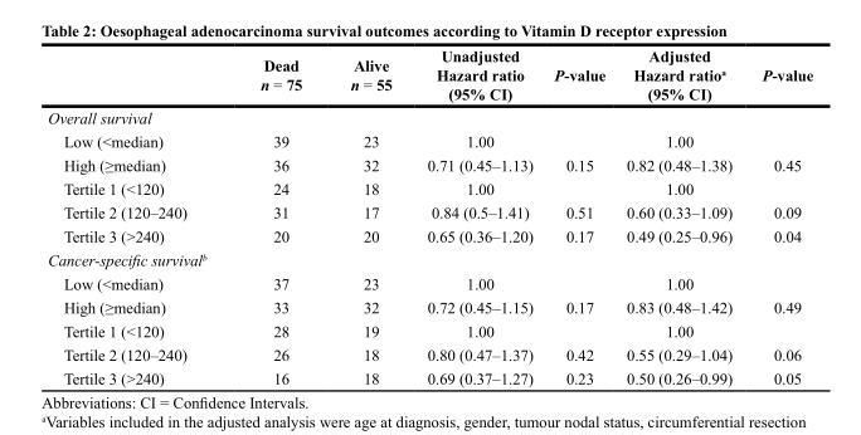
<table><thead><tr><td></td><td>Dead n = 75</td><td>Alive n = 55</td><td>Unadjusted Hazard ratio (95% CI)</td><td>P-value</td><td>Adjusted Hazard ratio<sup>a</sup> (95% CI)</td><td>P-value</td></tr></thead><tbody><tr><td colspan="7">Overall survival</td></tr><tr><td>Low (&lt;median)</td><td>39</td><td>23</td><td>1.00</td><td></td><td>1.00</td><td></td></tr><tr><td>High (≥median)</td><td>36</td><td>32</td><td>0.71 (0.45–1.13)</td><td>0.15</td><td>0.82 (0.48–1.38)</td><td>0.45</td></tr><tr><td>Tertile 1 (&lt;120)</td><td>24</td><td>18</td><td>1.00</td><td></td><td>1.00</td><td></td></tr><tr><td>Tertile 2 (120–240)</td><td>31</td><td>17</td><td>0.84 (0.5–1.41)</td><td>0.51</td><td>0.60 (0.33–1.09)</td><td>0.09</td></tr><tr><td>Tertile 3 (&gt;240)</td><td>20</td><td>20</td><td>0.65 (0.36–1.20)</td><td>0.17</td><td>0.49 (0.25–0.96)</td><td>0.04</td></tr><tr><td colspan="7">Cancer-specific survival<sup>b</sup></td></tr><tr><td>Low (&lt;median)</td><td>37</td><td>23</td><td>1.00</td><td></td><td>1.00</td><td></td></tr><tr><td>High (≥median)</td><td>33</td><td>32</td><td>0.72 (0.45–1.15)</td><td>0.17</td><td>0.83 (0.48–1.42)</td><td>0.49</td></tr><tr><td>Tertile 1 (&lt;120)</td><td>28</td><td>19</td><td>1.00</td><td></td><td>1.00</td><td></td></tr><tr><td>Tertile 2 (120–240)</td><td>26</td><td>18</td><td>0.80 (0.47–1.37)</td><td>0.42</td><td>0.55 (0.29–1.04)</td><td>0.06</td></tr><tr><td>Tertile 3 (&gt;240)</td><td>16</td><td>18</td><td>0.69 (0.37–1.27)</td><td>0.23</td><td>0.50 (0.26–0.99)</td><td>0.05</td></tr></tbody></table>